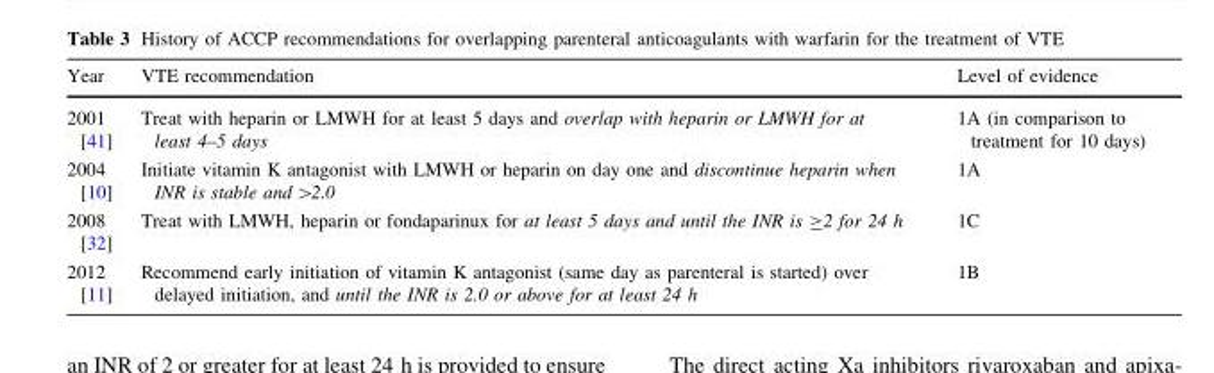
<table><thead><tr><td>Year</td><td>VTE recommendation</td><td>Level of evidence</td></tr></thead><tbody><tr><td>2001 [41]</td><td>Treat with heparin or LMWH for at least 5 days and overlap with heparin or LMWH for at least 4–5 days</td><td>1A (in comparison to treatment for 10 days)</td></tr><tr><td>2004 [10]</td><td>Initiate vitamin K antagonist with LMWH or heparin on day one and discontinue heparin when INR is stable and &gt;2.0</td><td>1A</td></tr><tr><td>2008 [32]</td><td>Treat with LMWH, heparin or fondaparinux for at least 5 days and until the INR is ≥2 for 24 h</td><td>1C</td></tr><tr><td>2012 [11]</td><td>Recommend early initiation of vitamin K antagonist (same day as parenteral is started) over delayed initiation, and until the INR is 2.0 or above for at least 24 h</td><td>1B</td></tr></tbody></table>